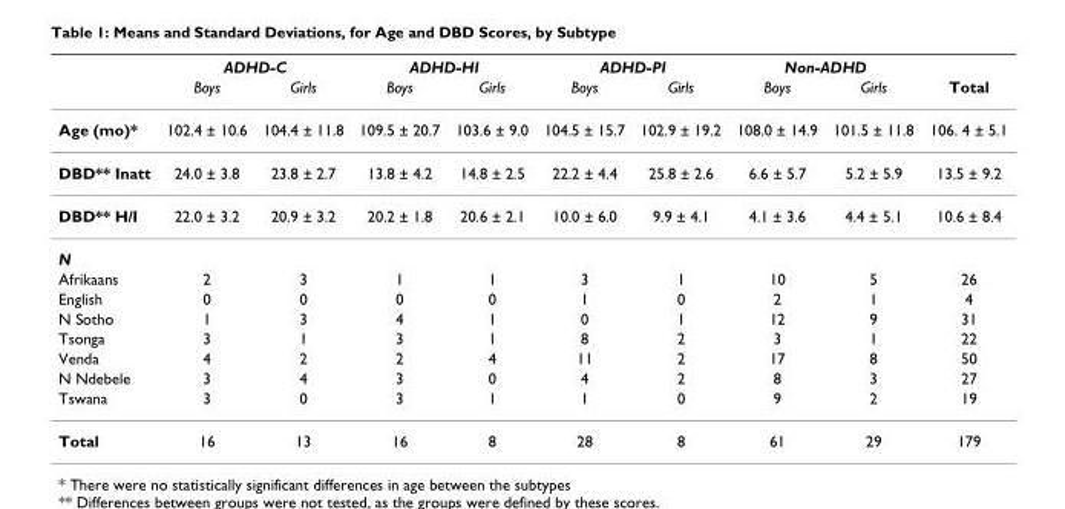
<table><thead><tr><td rowspan="2"></td><td colspan="2">ADHD-C</td><td colspan="2">ADHD-HI</td><td colspan="2">ADHD-PI</td><td colspan="2">Non-ADHD</td><td rowspan="2">Total</td></tr><tr><td>Boys</td><td>Girls</td><td>Boys</td><td>Girls</td><td>Boys</td><td>Girls</td><td>Boys</td><td>Girls</td></tr></thead><tbody><tr><td>Age (mo)*</td><td>102.4 ± 10.6</td><td>104.4 ± 11.8</td><td>109.5 ± 20.7</td><td>103.6 ± 9.0</td><td>104.5 ± 15.7</td><td>102.9 ± 19.2</td><td>108.0 ± 14.9</td><td>101.5 ± 11.8</td><td>106. 4 ± 5.1</td></tr><tr><td>DBD** Inatt</td><td>24.0 ± 3.8</td><td>23.8 ± 2.7</td><td>13.8 ± 4.2</td><td>14.8 ± 2.5</td><td>22.2 ± 4.4</td><td>25.8 ± 2.6</td><td>6.6 ± 5.7</td><td>5.2 ± 5.9</td><td>13.5 ± 9.2</td></tr><tr><td>DBD** H/I</td><td>22.0 ± 3.2</td><td>20.9 ± 3.2</td><td>20.2 ± 1.8</td><td>20.6 ± 2.1</td><td>10.0 ± 6.0</td><td>9.9 ± 4.1</td><td>4.1 ± 3.6</td><td>4.4 ± 5.1</td><td>10.6 ± 8.4</td></tr><tr><td colspan="10">N</td></tr><tr><td>Afrikaans</td><td>2</td><td>3</td><td>1</td><td>1</td><td>3</td><td>1</td><td>10</td><td>5</td><td>26</td></tr><tr><td>English</td><td>0</td><td>0</td><td>0</td><td>0</td><td>1</td><td>0</td><td>2</td><td>1</td><td>4</td></tr><tr><td>N Sotho</td><td>1</td><td>3</td><td>4</td><td>1</td><td>0</td><td>1</td><td>12</td><td>9</td><td>31</td></tr><tr><td>Tsonga</td><td>3</td><td>1</td><td>3</td><td>1</td><td>8</td><td>2</td><td>3</td><td>1</td><td>22</td></tr><tr><td>Venda</td><td>4</td><td>2</td><td>2</td><td>4</td><td>11</td><td>2</td><td>17</td><td>8</td><td>50</td></tr><tr><td>N Ndebele</td><td>3</td><td>4</td><td>3</td><td>0</td><td>4</td><td>2</td><td>8</td><td>3</td><td>27</td></tr><tr><td>Tswana</td><td>3</td><td>0</td><td>3</td><td>1</td><td>1</td><td>0</td><td>9</td><td>2</td><td>19</td></tr><tr><td>Total</td><td>16</td><td>13</td><td>16</td><td>8</td><td>28</td><td>8</td><td>61</td><td>29</td><td>179</td></tr></tbody></table>